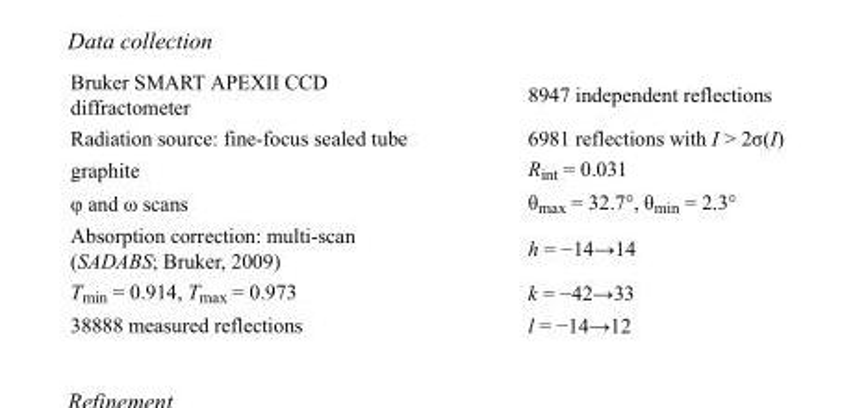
<table><tbody><tr><td>Bruker SMART APEXII CCD diffractometer</td><td>8947 independent reflections</td></tr><tr><td>Radiation source: fine-focus sealed tube</td><td>6981 reflections with I &gt; 2σ(I)</td></tr><tr><td>graphite</td><td>R<sub>int</sub> = 0.031</td></tr><tr><td>φ and ω scans</td><td>θ<sub>max</sub> = 32.7°, θ<sub>min</sub> = 2.3°</td></tr><tr><td>Absorption correction: multi-scan (SADABS; Bruker, 2009)</td><td>h = −14→14</td></tr><tr><td>T<sub>min</sub> = 0.914, T<sub>max</sub> = 0.973</td><td>k = −42→33</td></tr><tr><td>38888 measured reflections</td><td>l = −14→12</td></tr></tbody></table>